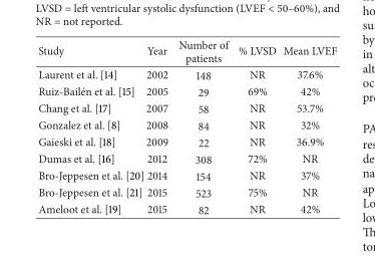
<table><thead><tr><td>Study</td><td>Year</td><td>Number of patients</td><td>% LVSD</td><td>Mean LVEF</td></tr></thead><tbody><tr><td>Laurent et al. [14]</td><td>2002</td><td>148</td><td>NR</td><td>37.6%</td></tr><tr><td>Ruiz-Bail´en et al. [15]</td><td>2005</td><td>29</td><td>69%</td><td>42%</td></tr><tr><td>Chang et al. [17]</td><td>2007</td><td>58</td><td>NR</td><td>53.7%</td></tr><tr><td>Gonzalez et al. [8]</td><td>2008</td><td>84</td><td>NR</td><td>32%</td></tr><tr><td>Gaieski et al. [18]</td><td>2009</td><td>22</td><td>NR</td><td>36.9%</td></tr><tr><td>Dumas et al. [16]</td><td>2012</td><td>308</td><td>72%</td><td>NR</td></tr><tr><td>Bro-Jeppesen et al. [20]</td><td>2014</td><td>154</td><td>NR</td><td>37%</td></tr><tr><td>Bro-Jeppesen et al. [21]</td><td>2015</td><td>523</td><td>75%</td><td>NR</td></tr><tr><td>Ameloot et al. [19]</td><td>2015</td><td>82</td><td>NR</td><td>42%</td></tr></tbody></table>